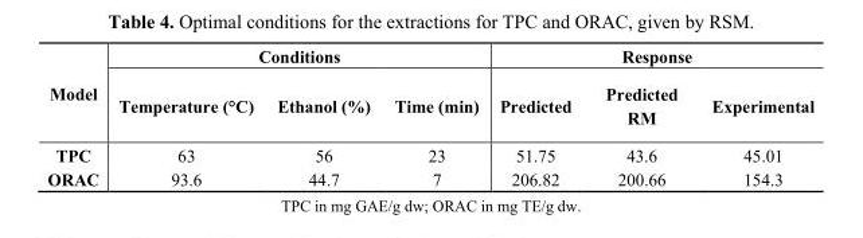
<table><thead><tr><td rowspan="2">Model</td><td colspan="3">Conditions</td><td colspan="3">Response</td></tr><tr><td>Temperature (°C)</td><td>Ethanol (%)</td><td>Time (min)</td><td>Predicted</td><td>Predicted RM</td><td>Experimental</td></tr></thead><tbody><tr><td>TPC</td><td>63</td><td>56</td><td>23</td><td>51.75</td><td>43.6</td><td>45.01</td></tr><tr><td>ORAC</td><td>93.6</td><td>44.7</td><td>7</td><td>206.82</td><td>200.66</td><td>154.3</td></tr></tbody></table>